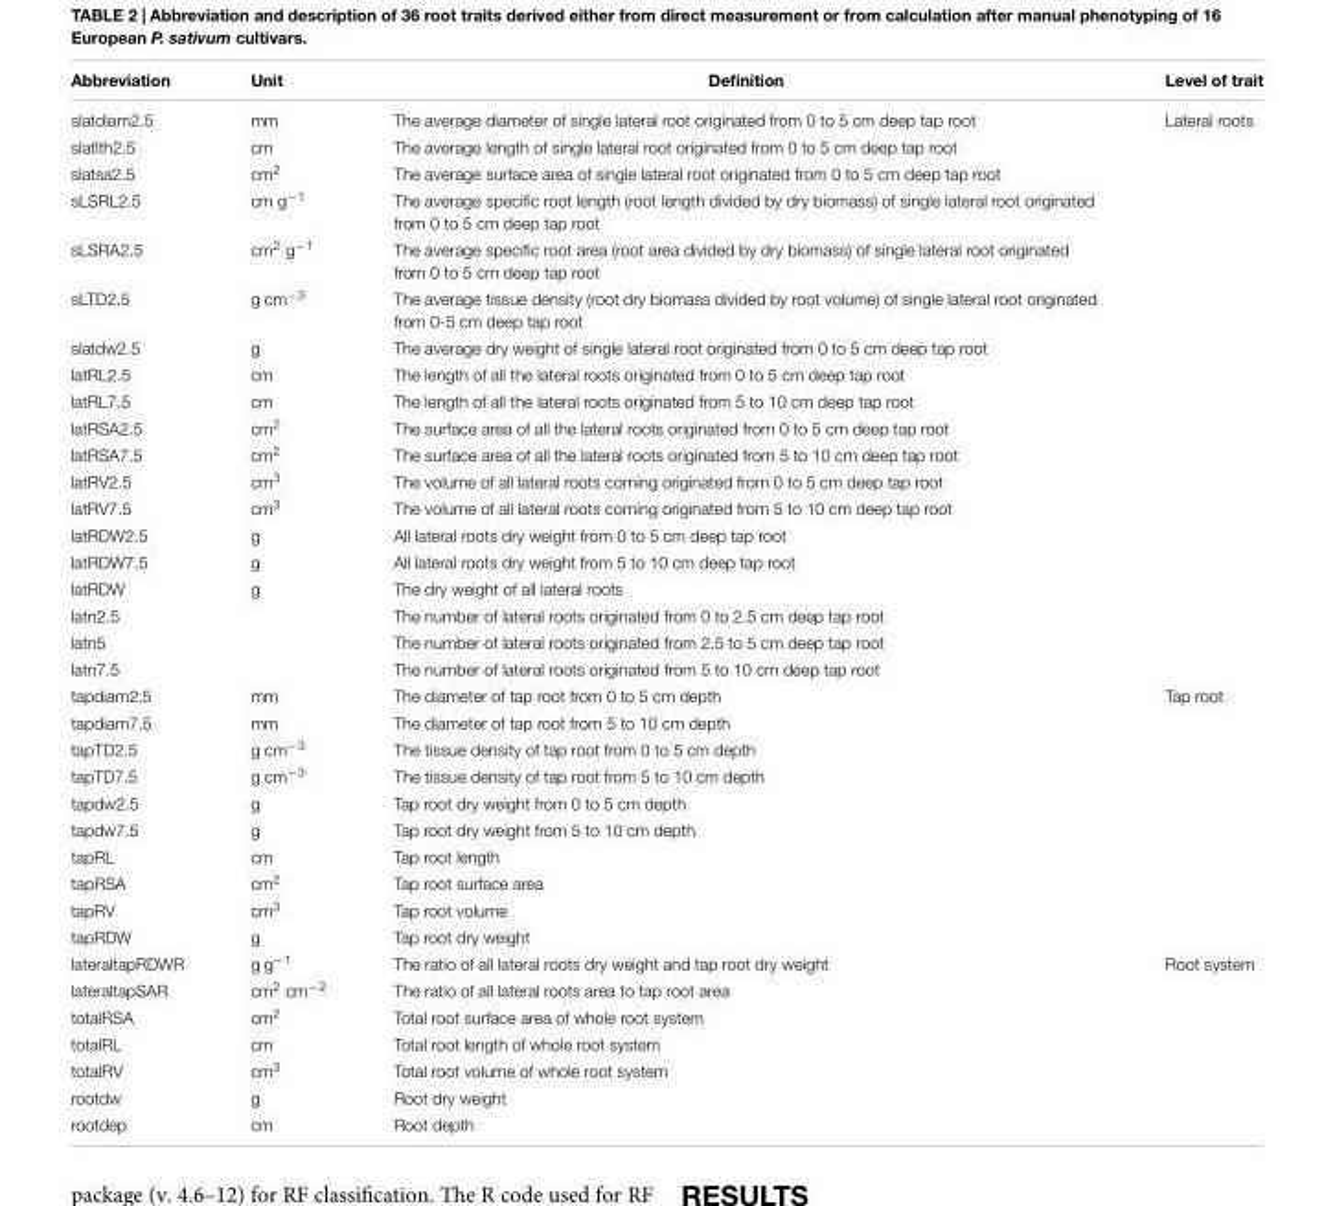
<table><thead><tr><td>Abbreviation</td><td>Unit</td><td>Definition</td><td>Level of trait</td></tr></thead><tbody><tr><td>slatdiam2.5</td><td>mm</td><td>The average diameter of single lateral root originated from 0 to 5 cm deep tap root</td><td>Lateral roots</td></tr><tr><td>slatlth2.5</td><td>cm</td><td>The average length of single lateral root originated from 0 to 5 cm deep tap root</td><td></td></tr><tr><td>slatsa2.5</td><td>cm<sup>2</sup></td><td>The average surface area of single lateral root originated from 0 to 5 cm deep tap root</td><td></td></tr><tr><td>sLSRL2.5</td><td>cm g<sup>−1</sup></td><td>The average specific root length (root length divided by dry biomass) of single lateral root originated from 0 to 5 cm deep tap root</td><td></td></tr><tr><td>sLSRA2.5</td><td>cm<sup>2</sup> g<sup>−1</sup></td><td>The average specific root area (root area divided by dry biomass) of single lateral root originated from 0 to 5 cm deep tap root</td><td></td></tr><tr><td>sLTD2.5</td><td>g cm<sup>−3</sup></td><td>The average tissue density (root dry biomass divided by root volume) of single lateral root originated from 0-5 cm deep tap root</td><td></td></tr><tr><td>slatdw2.5</td><td>g</td><td>The average dry weight of single lateral root originated from 0 to 5 cm deep tap root</td><td></td></tr><tr><td>latRL2.5</td><td>cm</td><td>The length of all the lateral roots originated from 0 to 5 cm deep tap root</td><td></td></tr><tr><td>latRL7.5</td><td>cm</td><td>The length of all the lateral roots originated from 5 to 10 cm deep tap root</td><td></td></tr><tr><td>latRSA2.5</td><td>cm<sup>2</sup></td><td>The surface area of all the lateral roots originated from 0 to 5 cm deep tap root</td><td></td></tr><tr><td>latRSA7.5</td><td>cm<sup>2</sup></td><td>The surface area of all the lateral roots originated from 5 to 10 cm deep tap root</td><td></td></tr><tr><td>latRV2.5</td><td>cm<sup>3</sup></td><td>The volume of all lateral roots coming originated from 0 to 5 cm deep tap root</td><td></td></tr><tr><td>latRV7.5</td><td>cm<sup>3</sup></td><td>The volume of all lateral roots coming originated from 5 to 10 cm deep tap root</td><td></td></tr><tr><td>latRDW2.5</td><td>g</td><td>All lateral roots dry weight from 0 to 5 cm deep tap root</td><td></td></tr><tr><td>latRDW7.5</td><td>g</td><td>All lateral roots dry weight from 5 to 10 cm deep tap root</td><td></td></tr><tr><td>latRDW</td><td>g</td><td>The dry weight of all lateral roots</td><td></td></tr><tr><td>latn2.5</td><td></td><td>The number of lateral roots originated from 0 to 2.5 cm deep tap root</td><td></td></tr><tr><td>latn5</td><td></td><td>The number of lateral roots originated from 2.5 to 5 cm deep tap root</td><td></td></tr><tr><td>latn7.5</td><td></td><td>The number of lateral roots originated from 5 to 10 cm deep tap root</td><td></td></tr><tr><td>tapdiam2.5</td><td>mm</td><td>The diameter of tap root from 0 to 5 cm depth</td><td>Tap root</td></tr><tr><td>tapdiam7.5</td><td>mm</td><td>The diameter of tap root from 5 to 10 cm depth</td><td></td></tr><tr><td>tapTD2.5</td><td>g cm<sup>−3</sup></td><td>The tissue density of tap root from 0 to 5 cm depth</td><td></td></tr><tr><td>tapTD7.5</td><td>g cm<sup>−3</sup></td><td>The tissue density of tap root from 5 to 10 cm depth</td><td></td></tr><tr><td>tapdw2.5</td><td>g</td><td>Tap root dry weight from 0 to 5 cm depth</td><td></td></tr><tr><td>tapdw7.5</td><td>g</td><td>Tap root dry weight from 5 to 10 cm depth</td><td></td></tr><tr><td>tapRL</td><td>cm</td><td>Tap root length</td><td></td></tr><tr><td>tapRSA</td><td>cm<sup>2</sup></td><td>Tap root surface area</td><td></td></tr><tr><td>tapRV</td><td>cm<sup>3</sup></td><td>Tap root volume</td><td></td></tr><tr><td>tapRDW</td><td>g</td><td>Tap root dry weight</td><td></td></tr><tr><td>lateraltapRDWR</td><td>g g<sup>−1</sup></td><td>The ratio of all lateral roots dry weight and tap root dry weight</td><td>Root system</td></tr><tr><td>lateraltapSAR</td><td>cm<sup>2</sup> cm<sup>−2</sup></td><td>The ratio of all lateral roots area to tap root area</td><td></td></tr><tr><td>totalRSA</td><td>cm<sup>2</sup></td><td>Total root surface area of whole root system</td><td></td></tr><tr><td>totalRL</td><td>cm</td><td>Total root length of whole root system</td><td></td></tr><tr><td>totalRV</td><td>cm<sup>3</sup></td><td>Total root volume of whole root system</td><td></td></tr><tr><td>rootdw</td><td>g</td><td>Root dry weight</td><td></td></tr><tr><td>rootdep</td><td>cm</td><td>Root depth</td><td></td></tr></tbody></table>